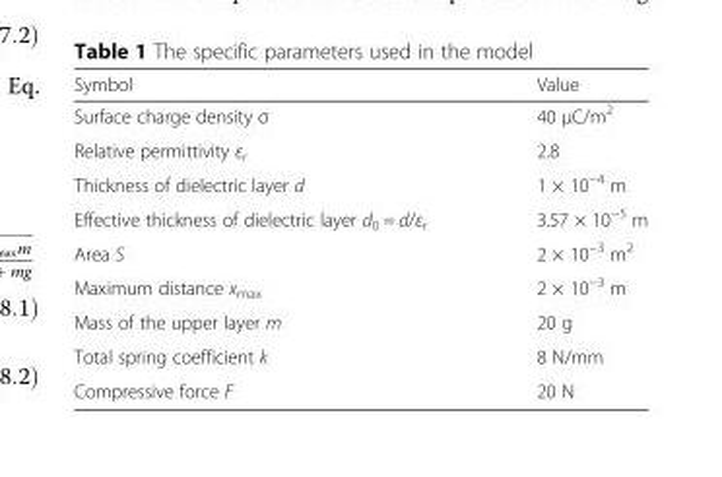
<table><thead><tr><td>Symbol</td><td>Value</td></tr></thead><tbody><tr><td>Surface charge density σ</td><td>40 μC/m<sup>2</sup></td></tr><tr><td>Relative permittivity ε<sub>r</sub></td><td>2.8</td></tr><tr><td>Thickness of dielectric layer d</td><td>1 × 10<sup>−4</sup> m</td></tr><tr><td>Effective thickness of dielectric layer d<sub>0</sub> = d/ε<sub>r</sub></td><td>3.57 × 10<sup>−5</sup> m</td></tr><tr><td>Area S</td><td>2 × 10<sup>−3</sup> m<sup>2</sup></td></tr><tr><td>Maximum distance x<sub>max</sub></td><td>2 × 10<sup>−3</sup> m</td></tr><tr><td>Mass of the upper layer m</td><td>20 g</td></tr><tr><td>Total spring coefficient k</td><td>8 N/mm</td></tr><tr><td>Compressive force F</td><td>20 N</td></tr></tbody></table>